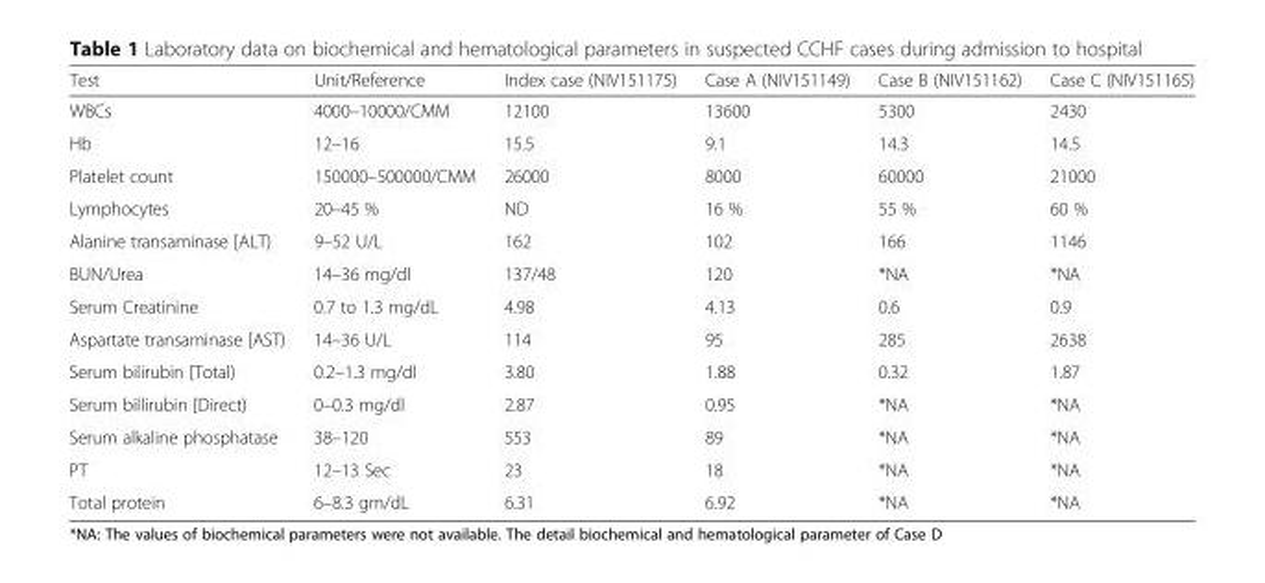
<table><thead><tr><td>Test</td><td>Unit/Reference</td><td>Index case (NIV151175)</td><td>Case A (NIV151149)</td><td>Case B (NIV151162)</td><td>Case C (NIV151165)</td></tr></thead><tbody><tr><td>WBCs</td><td>4000–10000/CMM</td><td>12100</td><td>13600</td><td>5300</td><td>2430</td></tr><tr><td>Hb</td><td>12–16</td><td>15.5</td><td>9.1</td><td>14.3</td><td>14.5</td></tr><tr><td>Platelet count</td><td>150000–500000/CMM</td><td>26000</td><td>8000</td><td>60000</td><td>21000</td></tr><tr><td>Lymphocytes</td><td>20–45 %</td><td>ND</td><td>16 %</td><td>55 %</td><td>60 %</td></tr><tr><td>Alanine transaminase [ALT)</td><td>9–52 U/L</td><td>162</td><td>102</td><td>166</td><td>1146</td></tr><tr><td>BUN/Urea</td><td>14–36 mg/dl</td><td>137/48</td><td>120</td><td>*NA</td><td>*NA</td></tr><tr><td>Serum Creatinine</td><td>0.7 to 1.3 mg/dL</td><td>4.98</td><td>4.13</td><td>0.6</td><td>0.9</td></tr><tr><td>Aspartate transaminase [AST)</td><td>14–36 U/L</td><td>114</td><td>95</td><td>285</td><td>2638</td></tr><tr><td>Serum bilirubin [Total)</td><td>0.2–1.3 mg/dl</td><td>3.80</td><td>1.88</td><td>0.32</td><td>1.87</td></tr><tr><td>Serum billirubin [Direct)</td><td>0–0.3 mg/dl</td><td>2.87</td><td>0.95</td><td>*NA</td><td>*NA</td></tr><tr><td>Serum alkaline phosphatase</td><td>38–120</td><td>553</td><td>89</td><td>*NA</td><td>*NA</td></tr><tr><td>PT</td><td>12–13 Sec</td><td>23</td><td>18</td><td>*NA</td><td>*NA</td></tr><tr><td>Total protein</td><td>6–8.3 gm/dL</td><td>6.31</td><td>6.92</td><td>*NA</td><td>*NA</td></tr></tbody></table>